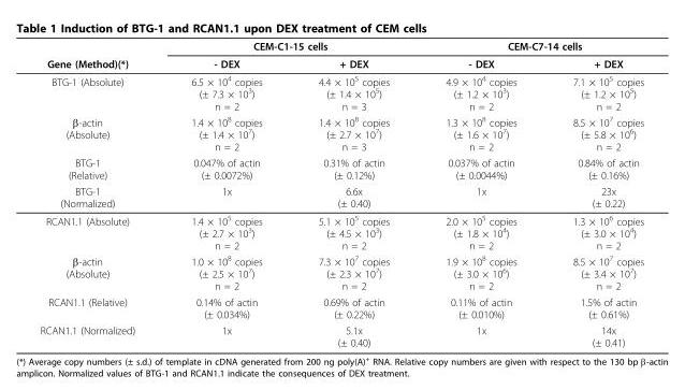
<table><thead><tr><td rowspan="2">Gene (Method)(*)</td><td colspan="2">CEM-C1-15 cells</td><td colspan="2">CEM-C7-14 cells</td></tr><tr><td>- DEX</td><td>+ DEX</td><td>- DEX</td><td>+ DEX</td></tr></thead><tbody><tr><td>BTG-1 (Absolute)</td><td>6.5 × 10<sup>4</sup> copies (± 7.3 × 10<sup>3</sup>) n = 2</td><td>4.4 × 10<sup>5</sup> copies (± 1.4 × 10<sup>5</sup>) n = 3</td><td>4.9 × 10<sup>4</sup> copies (± 1.2 × 10<sup>3</sup>) n = 2</td><td>7.1 × 10<sup>5</sup> copies (± 1.2 × 10<sup>5</sup>) n = 2</td></tr><tr><td>β-actin (Absolute)</td><td>1.4 × 10<sup>8</sup> copies (± 1.4 × 10<sup>7</sup>) n = 2</td><td>1.4 × 10<sup>8</sup> copies (± 2.7 × 10<sup>7</sup>) n = 3</td><td>1.3 × 10<sup>8</sup> copies (± 1.6 × 10<sup>7</sup>) n = 2</td><td>8.5 × 10<sup>7</sup> copies (± 5.8 × 10<sup>6</sup>) n = 2</td></tr><tr><td>BTG-1 (Relative)</td><td>0.047% of actin (± 0.0072%)</td><td>0.31% of actin (± 0.12%)</td><td>0.037% of actin (± 0.0044%)</td><td>0.84% of actin (± 0.16%)</td></tr><tr><td>BTG-1 (Normalized)</td><td>1x</td><td>6.6x (± 0.40)</td><td>1x</td><td>23x (± 0.22)</td></tr><tr><td>RCAN1.1 (Absolute)</td><td>1.4 × 10<sup>5</sup> copies (± 2.7 × 10<sup>3</sup>) n = 2</td><td>5.1 × 10<sup>5</sup> copies (± 4.5 × 10<sup>3</sup>) n = 2</td><td>2.0 × 10<sup>5</sup> copies (± 1.8 × 10<sup>4</sup>) n = 2</td><td>1.3 × 10<sup>6</sup> copies (± 3.0 × 10<sup>4</sup>) n = 2</td></tr><tr><td>β-actin (Absolute)</td><td>1.0 × 10<sup>8</sup> copies (± 2.5 × 10<sup>7</sup>) n = 2</td><td>7.3 × 10<sup>7</sup> copies (± 2.3 × 10<sup>7</sup>) n = 2</td><td>1.9 × 10<sup>8</sup> copies (± 3.0 × 10<sup>6</sup>) n = 2</td><td>8.5 × 10<sup>7</sup> copies (± 3.4 × 10<sup>7</sup>) n = 2</td></tr><tr><td>RCAN1.1 (Relative)</td><td>0.14% of actin (± 0.034%)</td><td>0.69% of actin (± 0.22%)</td><td>0.11% of actin (± 0.010%)</td><td>1.5% of actin (± 0.61%)</td></tr><tr><td>RCAN1.1 (Normalized)</td><td>1x</td><td>5.1x (± 0.40)</td><td>1x</td><td>14x (± 0.41)</td></tr></tbody></table>